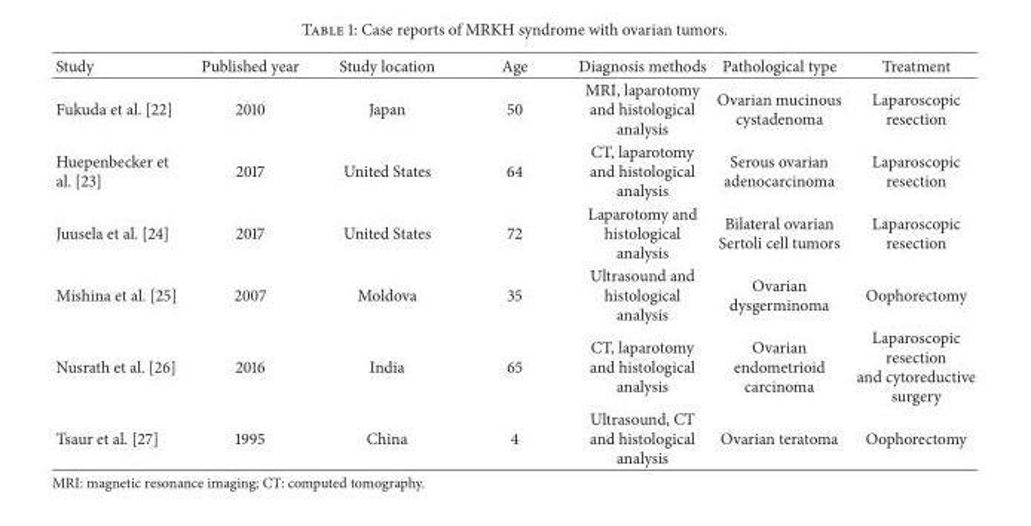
<table><thead><tr><td>Study</td><td>Published year</td><td>Study location</td><td>Age</td><td>Diagnosis methods</td><td>Pathological type</td><td>Treatment</td></tr></thead><tbody><tr><td>Fukuda et al. [22]</td><td>2010</td><td>Japan</td><td>50</td><td>MRI, laparotomy and histological analysis</td><td>Ovarian mucinous cystadenoma</td><td>Laparoscopic resection</td></tr><tr><td>Huepenbecker et al. [23]</td><td>2017</td><td>United States</td><td>64</td><td>CT, laparotomy and histological analysis</td><td>Serous ovarian adenocarcinoma</td><td>Laparoscopic resection</td></tr><tr><td>Juusela et al. [24]</td><td>2017</td><td>United States</td><td>72</td><td>Laparotomy and histological analysis</td><td>Bilateral ovarian Sertoli cell tumors</td><td>Laparoscopic resection</td></tr><tr><td>Mishina et al. [25]</td><td>2007</td><td>Moldova</td><td>35</td><td>Ultrasound and histological analysis</td><td>Ovarian dysgerminoma</td><td>Oophorectomy</td></tr><tr><td>Nusrath et al. [26]</td><td>2016</td><td>India</td><td>65</td><td>CT, laparotomy and histological analysis</td><td>Ovarian endometrioid carcinoma</td><td>Laparoscopic resection and cytoreductive surgery</td></tr><tr><td>Tsaur et al. [27]</td><td>1995</td><td>China</td><td>4</td><td>Ultrasound, CT and histological analysis</td><td>Ovarian teratoma</td><td>Oophorectomy</td></tr></tbody></table>